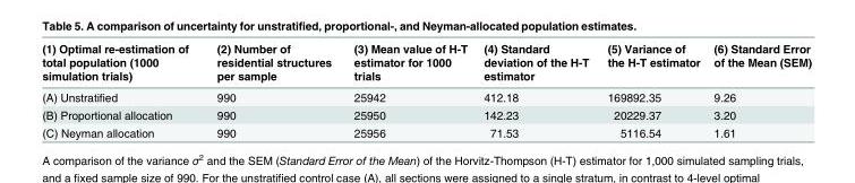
<table><thead><tr><td>(1) Optimal re-estimation of total population (1000 simulation trials)</td><td>(2) Number of residential structures per sample</td><td>(3) Mean value of H-T estimator for 1000 trials</td><td>(4) Standard deviation of the H-T estimator</td><td>(5) Variance of the H-T estimator</td><td>(6) Standard Error of the Mean (SEM)</td></tr></thead><tbody><tr><td>(A) Unstratified</td><td>990</td><td>25942</td><td>412.18</td><td>169892.35</td><td>9.26</td></tr><tr><td>(B) Proportional allocation</td><td>990</td><td>25950</td><td>142.23</td><td>20229.37</td><td>3.20</td></tr><tr><td>(C) Neyman allocation</td><td>990</td><td>25956</td><td>71.53</td><td>5116.54</td><td>1.61</td></tr></tbody></table>